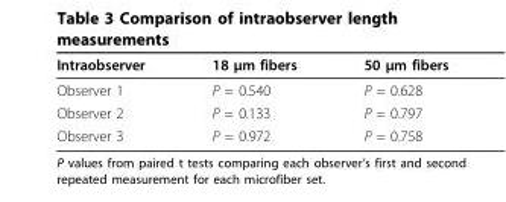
<table><thead><tr><td>Intraobserver</td><td>18 μm fibers</td><td>50 μm fibers</td></tr></thead><tbody><tr><td>Observer 1</td><td>P = 0.540</td><td>P = 0.628</td></tr><tr><td>Observer 2</td><td>P = 0.133</td><td>P = 0.797</td></tr><tr><td>Observer 3</td><td>P = 0.972</td><td>P = 0.758</td></tr></tbody></table>